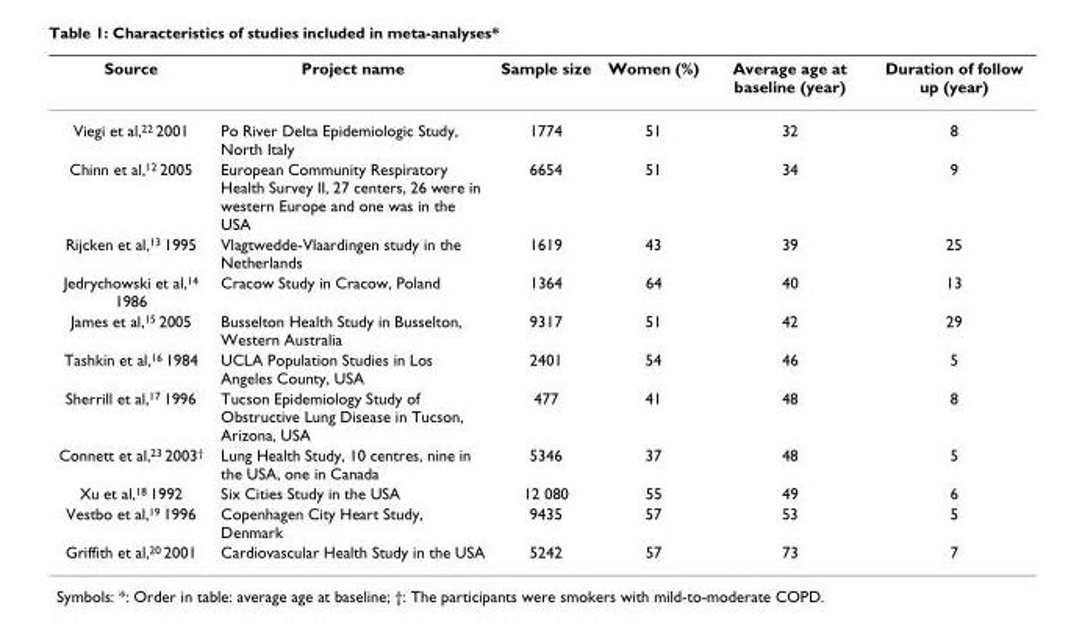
<table><thead><tr><td>Source</td><td>Project name</td><td>Sample size</td><td>Women (%)</td><td>Average age at baseline (year)</td><td>Duration of follow up (year)</td></tr></thead><tbody><tr><td>Viegi et al,<sup>22</sup> 2001</td><td>Po River Delta Epidemiologic Study, North Italy</td><td>1774</td><td>51</td><td>32</td><td>8</td></tr><tr><td>Chinn et al,<sup>12</sup> 2005</td><td>European Community Respiratory Health Survey II, 27 centers, 26 were in western Europe and one was in the USA</td><td>6654</td><td>51</td><td>34</td><td>9</td></tr><tr><td>Rijcken et al,<sup>13</sup> 1995</td><td>Vlagtwedde-Vlaardingen study in the Netherlands</td><td>1619</td><td>43</td><td>39</td><td>25</td></tr><tr><td>Jedrychowski et al,<sup>14</sup> 1986</td><td>Cracow Study in Cracow, Poland</td><td>1364</td><td>64</td><td>40</td><td>13</td></tr><tr><td>James et al,<sup>15</sup> 2005</td><td>Busselton Health Study in Busselton, Western Australia</td><td>9317</td><td>51</td><td>42</td><td>29</td></tr><tr><td>Tashkin et al,<sup>16</sup> 1984</td><td>UCLA Population Studies in Los Angeles County, USA</td><td>2401</td><td>54</td><td>46</td><td>5</td></tr><tr><td>Sherrill et al,<sup>17</sup> 1996</td><td>Tucson Epidemiology Study of Obstructive Lung Disease in Tucson, Arizona, USA</td><td>477</td><td>41</td><td>48</td><td>8</td></tr><tr><td>Connett et al,<sup>23</sup> 2003<sup>†</sup></td><td>Lung Health Study, 10 centres, nine in the USA, one in Canada</td><td>5346</td><td>37</td><td>48</td><td>5</td></tr><tr><td>Xu et al,<sup>18</sup> 1992</td><td>Six Cities Study in the USA</td><td>12 080</td><td>55</td><td>49</td><td>6</td></tr><tr><td>Vestbo et al,<sup>19</sup> 1996</td><td>Copenhagen City Heart Study, Denmark</td><td>9435</td><td>57</td><td>53</td><td>5</td></tr><tr><td>Griffith et al,<sup>20</sup> 2001</td><td>Cardiovascular Health Study in the USA</td><td>5242</td><td>57</td><td>73</td><td>7</td></tr></tbody></table>